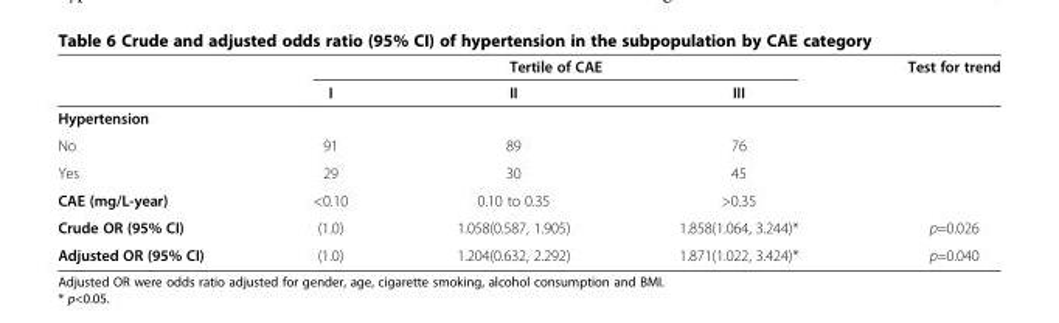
<table><thead><tr><td rowspan="2"></td><td colspan="3">Tertile of CAE</td><td rowspan="2">Test for trend</td></tr><tr><td>I</td><td>II</td><td>III</td></tr></thead><tbody><tr><td colspan="5">Hypertension</td></tr><tr><td>No</td><td>91</td><td>89</td><td>76</td><td></td></tr><tr><td>Yes</td><td>29</td><td>30</td><td>45</td><td></td></tr><tr><td>CAE (mg/L-year)</td><td>&lt;0.10</td><td>0.10 to 0.35</td><td>&gt;0.35</td><td></td></tr><tr><td>Crude OR (95% CI)</td><td>(1.0)</td><td>1.058(0.587, 1.905)</td><td>1.858(1.064, 3.244)*</td><td>p=0.026</td></tr><tr><td>Adjusted OR (95% CI)</td><td>(1.0)</td><td>1.204(0.632, 2.292)</td><td>1.871(1.022, 3.424)*</td><td>p=0.040</td></tr></tbody></table>